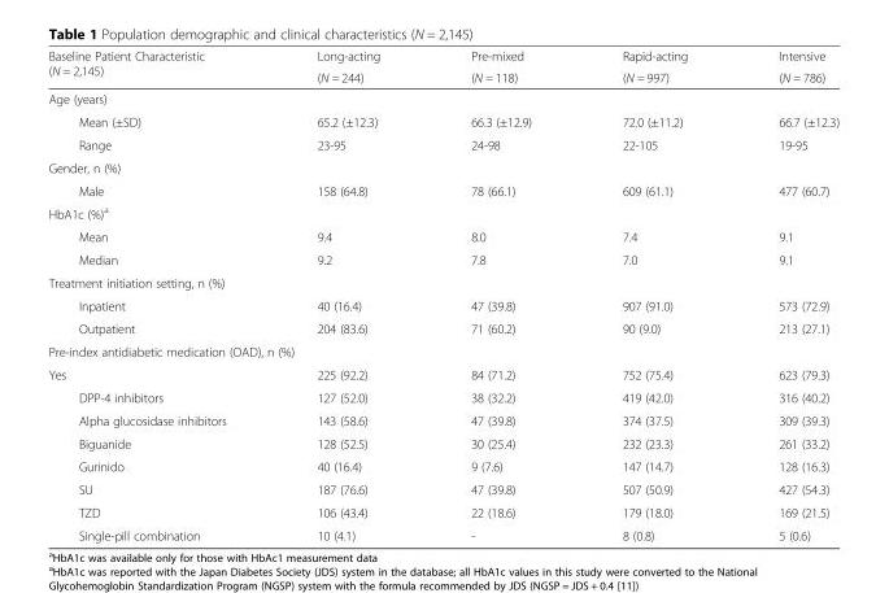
<table><thead><tr><td rowspan="2">Baseline Patient Characteristic (N = 2,145)</td><td rowspan="2">Long-acting (N = 244)</td><td rowspan="2">Pre-mixed (N = 118)</td><td rowspan="2">Rapid-acting (N = 997)</td><td rowspan="2">Intensive (N = 786)</td></tr><tr></tr></thead><tbody><tr><td colspan="5">Age (years)</td></tr><tr><td>Mean (±SD)</td><td>65.2 (±12.3)</td><td>66.3 (±12.9)</td><td>72.0 (±11.2)</td><td>66.7 (±12.3)</td></tr><tr><td>Range</td><td>23-95</td><td>24-98</td><td>22-105</td><td>19-95</td></tr><tr><td colspan="5">Gender, n (%)</td></tr><tr><td>Male</td><td>158 (64.8)</td><td>78 (66.1)</td><td>609 (61.1)</td><td>477 (60.7)</td></tr><tr><td colspan="5">HbA1c (%)<sup>a</sup></td></tr><tr><td>Mean</td><td>9.4</td><td>8.0</td><td>7.4</td><td>9.1</td></tr><tr><td>Median</td><td>9.2</td><td>7.8</td><td>7.0</td><td>9.1</td></tr><tr><td colspan="5">Treatment initiation setting, n (%)</td></tr><tr><td>Inpatient</td><td>40 (16.4)</td><td>47 (39.8)</td><td>907 (91.0)</td><td>573 (72.9)</td></tr><tr><td>Outpatient</td><td>204 (83.6)</td><td>71 (60.2)</td><td>90 (9.0)</td><td>213 (27.1)</td></tr><tr><td colspan="5">Pre-index antidiabetic medication (OAD), n (%)</td></tr><tr><td>Yes</td><td>225 (92.2)</td><td>84 (71.2)</td><td>752 (75.4)</td><td>623 (79.3)</td></tr><tr><td>DPP-4 inhibitors</td><td>127 (52.0)</td><td>38 (32.2)</td><td>419 (42.0)</td><td>316 (40.2)</td></tr><tr><td>Alpha glucosidase inhibitors</td><td>143 (58.6)</td><td>47 (39.8)</td><td>374 (37.5)</td><td>309 (39.3)</td></tr><tr><td>Biguanide</td><td>128 (52.5)</td><td>30 (25.4)</td><td>232 (23.3)</td><td>261 (33.2)</td></tr><tr><td>Gurinido</td><td>40 (16.4)</td><td>9 (7.6)</td><td>147 (14.7)</td><td>128 (16.3)</td></tr><tr><td>SU</td><td>187 (76.6)</td><td>47 (39.8)</td><td>507 (50.9)</td><td>427 (54.3)</td></tr><tr><td>TZD</td><td>106 (43.4)</td><td>22 (18.6)</td><td>179 (18.0)</td><td>169 (21.5)</td></tr><tr><td>Single-pill combination</td><td>10 (4.1)</td><td>-</td><td>8 (0.8)</td><td>5 (0.6)</td></tr></tbody></table>